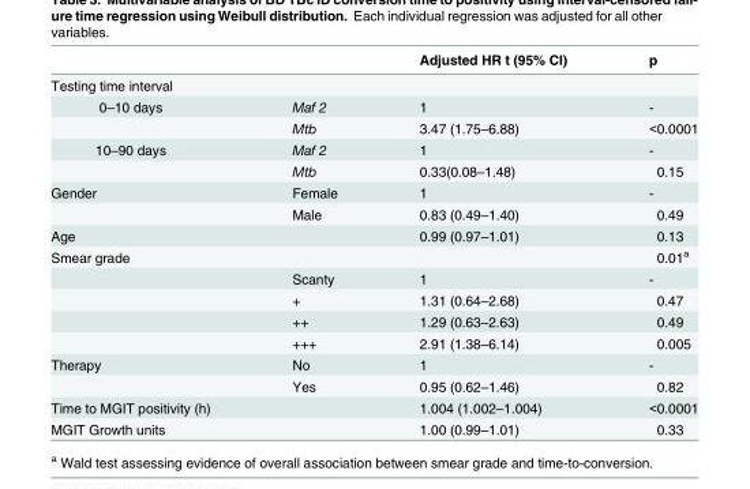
<table><thead><tr><td></td><td></td><td>Adjusted HR t (95% CI)</td><td>p</td></tr></thead><tbody><tr><td colspan="4">Testing time interval</td></tr><tr><td rowspan="2">0–10 days</td><td>Maf 2</td><td>1</td><td>-</td></tr><tr><td>Mtb</td><td>3.47 (1.75–6.88)</td><td>&lt;0.0001</td></tr><tr><td rowspan="2">10–90 days</td><td>Maf 2</td><td>1</td><td>-</td></tr><tr><td>Mtb</td><td>0.33(0.08–1.48)</td><td>0.15</td></tr><tr><td rowspan="2">Gender</td><td>Female</td><td>1</td><td>-</td></tr><tr><td>Male</td><td>0.83 (0.49–1.40)</td><td>0.49</td></tr><tr><td>Age</td><td></td><td>0.99 (0.97–1.01)</td><td>0.13</td></tr><tr><td rowspan="5">Smear grade</td><td></td><td></td><td>0.01<sup>a</sup></td></tr><tr><td>Scanty</td><td>1</td><td>-</td></tr><tr><td>+</td><td>1.31 (0.64–2.68)</td><td>0.47</td></tr><tr><td>++</td><td>1.29 (0.63–2.63)</td><td>0.49</td></tr><tr><td>+++</td><td>2.91 (1.38–6.14)</td><td>0.005</td></tr><tr><td rowspan="2">Therapy</td><td>No</td><td>1</td><td>-</td></tr><tr><td>Yes</td><td>0.95 (0.62–1.46)</td><td>0.82</td></tr><tr><td>Time to MGIT positivity (h)</td><td></td><td>1.004 (1.002–1.004)</td><td>&lt;0.0001</td></tr><tr><td>MGIT Growth units</td><td></td><td>1.00 (0.99–1.01)</td><td>0.33</td></tr></tbody></table>